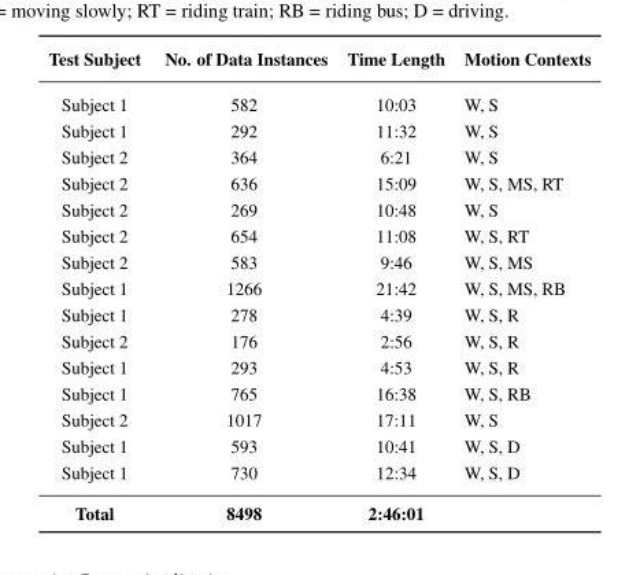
<table><thead><tr><td>Test Subject</td><td>No. of Data Instances</td><td>Time Length</td><td>Motion Contexts</td></tr></thead><tbody><tr><td>Subject 1</td><td>582</td><td>10:03</td><td>W, S</td></tr><tr><td>Subject 1</td><td>292</td><td>11:32</td><td>W, S</td></tr><tr><td>Subject 2</td><td>364</td><td>6:21</td><td>W, S</td></tr><tr><td>Subject 2</td><td>636</td><td>15:09</td><td>W, S, MS, RT</td></tr><tr><td>Subject 2</td><td>269</td><td>10:48</td><td>W, S</td></tr><tr><td>Subject 2</td><td>654</td><td>11:08</td><td>W, S, RT</td></tr><tr><td>Subject 2</td><td>583</td><td>9:46</td><td>W, S, MS</td></tr><tr><td>Subject 1</td><td>1266</td><td>21:42</td><td>W, S, MS, RB</td></tr><tr><td>Subject 1</td><td>278</td><td>4:39</td><td>W, S, R</td></tr><tr><td>Subject 2</td><td>176</td><td>2:56</td><td>W, S, R</td></tr><tr><td>Subject 1</td><td>293</td><td>4:53</td><td>W, S, R</td></tr><tr><td>Subject 1</td><td>765</td><td>16:38</td><td>W, S, RB</td></tr><tr><td>Subject 2</td><td>1017</td><td>17:11</td><td>W, S</td></tr><tr><td>Subject 1</td><td>593</td><td>10:41</td><td>W, S, D</td></tr><tr><td>Subject 1</td><td>730</td><td>12:34</td><td>W, S, D</td></tr><tr><td>Total</td><td>8498</td><td>2:46:01</td><td></td></tr></tbody></table>